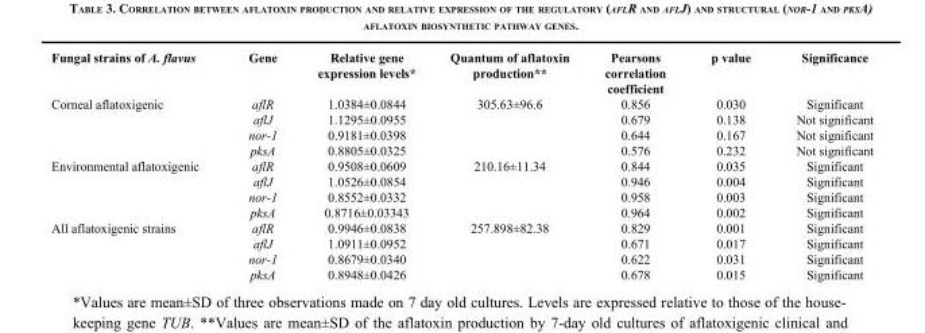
<table><thead><tr><td>Fungal strains of A. flavus</td><td>Gene</td><td>Relative gene expression levels*</td><td>Quantum of aflatoxin production**</td><td>Pearsons correlation coefficient</td><td>p value</td><td>Significance</td></tr></thead><tbody><tr><td rowspan="4">Corneal aflatoxigenic</td><td>aflR</td><td>1.0384±0.0844</td><td>305.63±96.6</td><td>0.856</td><td>0.030</td><td>Significant</td></tr><tr><td>aflJ</td><td>1.1295±0.0955</td><td></td><td>0.679</td><td>0.138</td><td>Not significant</td></tr><tr><td>nor-1</td><td>0.9181±0.0398</td><td></td><td>0.644</td><td>0.167</td><td>Not significant</td></tr><tr><td>pksA</td><td>0.8805±0.0325</td><td></td><td>0.576</td><td>0.232</td><td>Not significant</td></tr><tr><td rowspan="4">Environmental aflatoxigenic</td><td>aflR</td><td>0.9508±0.0609</td><td>210.16±11.34</td><td>0.844</td><td>0.035</td><td>Significant</td></tr><tr><td>aflJ</td><td>1.0526±0.0854</td><td></td><td>0.946</td><td>0.004</td><td>Significant</td></tr><tr><td>nor-1</td><td>0.8552±0.0332</td><td></td><td>0.958</td><td>0.003</td><td>Significant</td></tr><tr><td>pksA</td><td>0.8716±0.03343</td><td></td><td>0.964</td><td>0.002</td><td>Significant</td></tr><tr><td rowspan="4">All aflatoxigenic strains</td><td>aflR</td><td>0.9946±0.0838</td><td>257.898±82.38</td><td>0.829</td><td>0.001</td><td>Significant</td></tr><tr><td>aflJ</td><td>1.0911±0.0952</td><td></td><td>0.671</td><td>0.017</td><td>Significant</td></tr><tr><td>nor-1</td><td>0.8679±0.0340</td><td></td><td>0.622</td><td>0.031</td><td>Significant</td></tr><tr><td>pksA</td><td>0.8948±0.0426</td><td></td><td>0.678</td><td>0.015</td><td>Significant</td></tr></tbody></table>